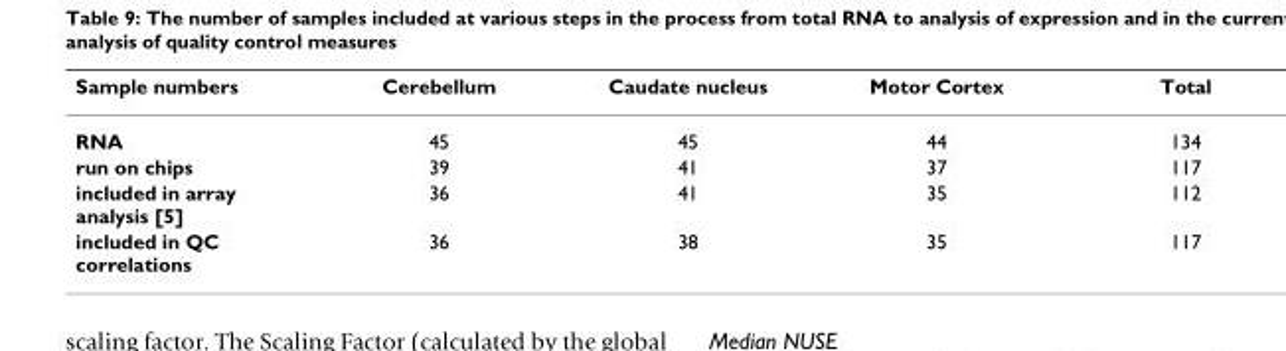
<table><thead><tr><td>Sample numbers</td><td>Cerebellum</td><td>Caudate nucleus</td><td>Motor Cortex</td><td>Total</td></tr></thead><tbody><tr><td>RNA</td><td>45</td><td>45</td><td>44</td><td>134</td></tr><tr><td>run on chips</td><td>39</td><td>41</td><td>37</td><td>117</td></tr><tr><td>included in array analysis [5]</td><td>36</td><td>41</td><td>35</td><td>112</td></tr><tr><td>included in QC correlations</td><td>36</td><td>38</td><td>35</td><td>117</td></tr></tbody></table>